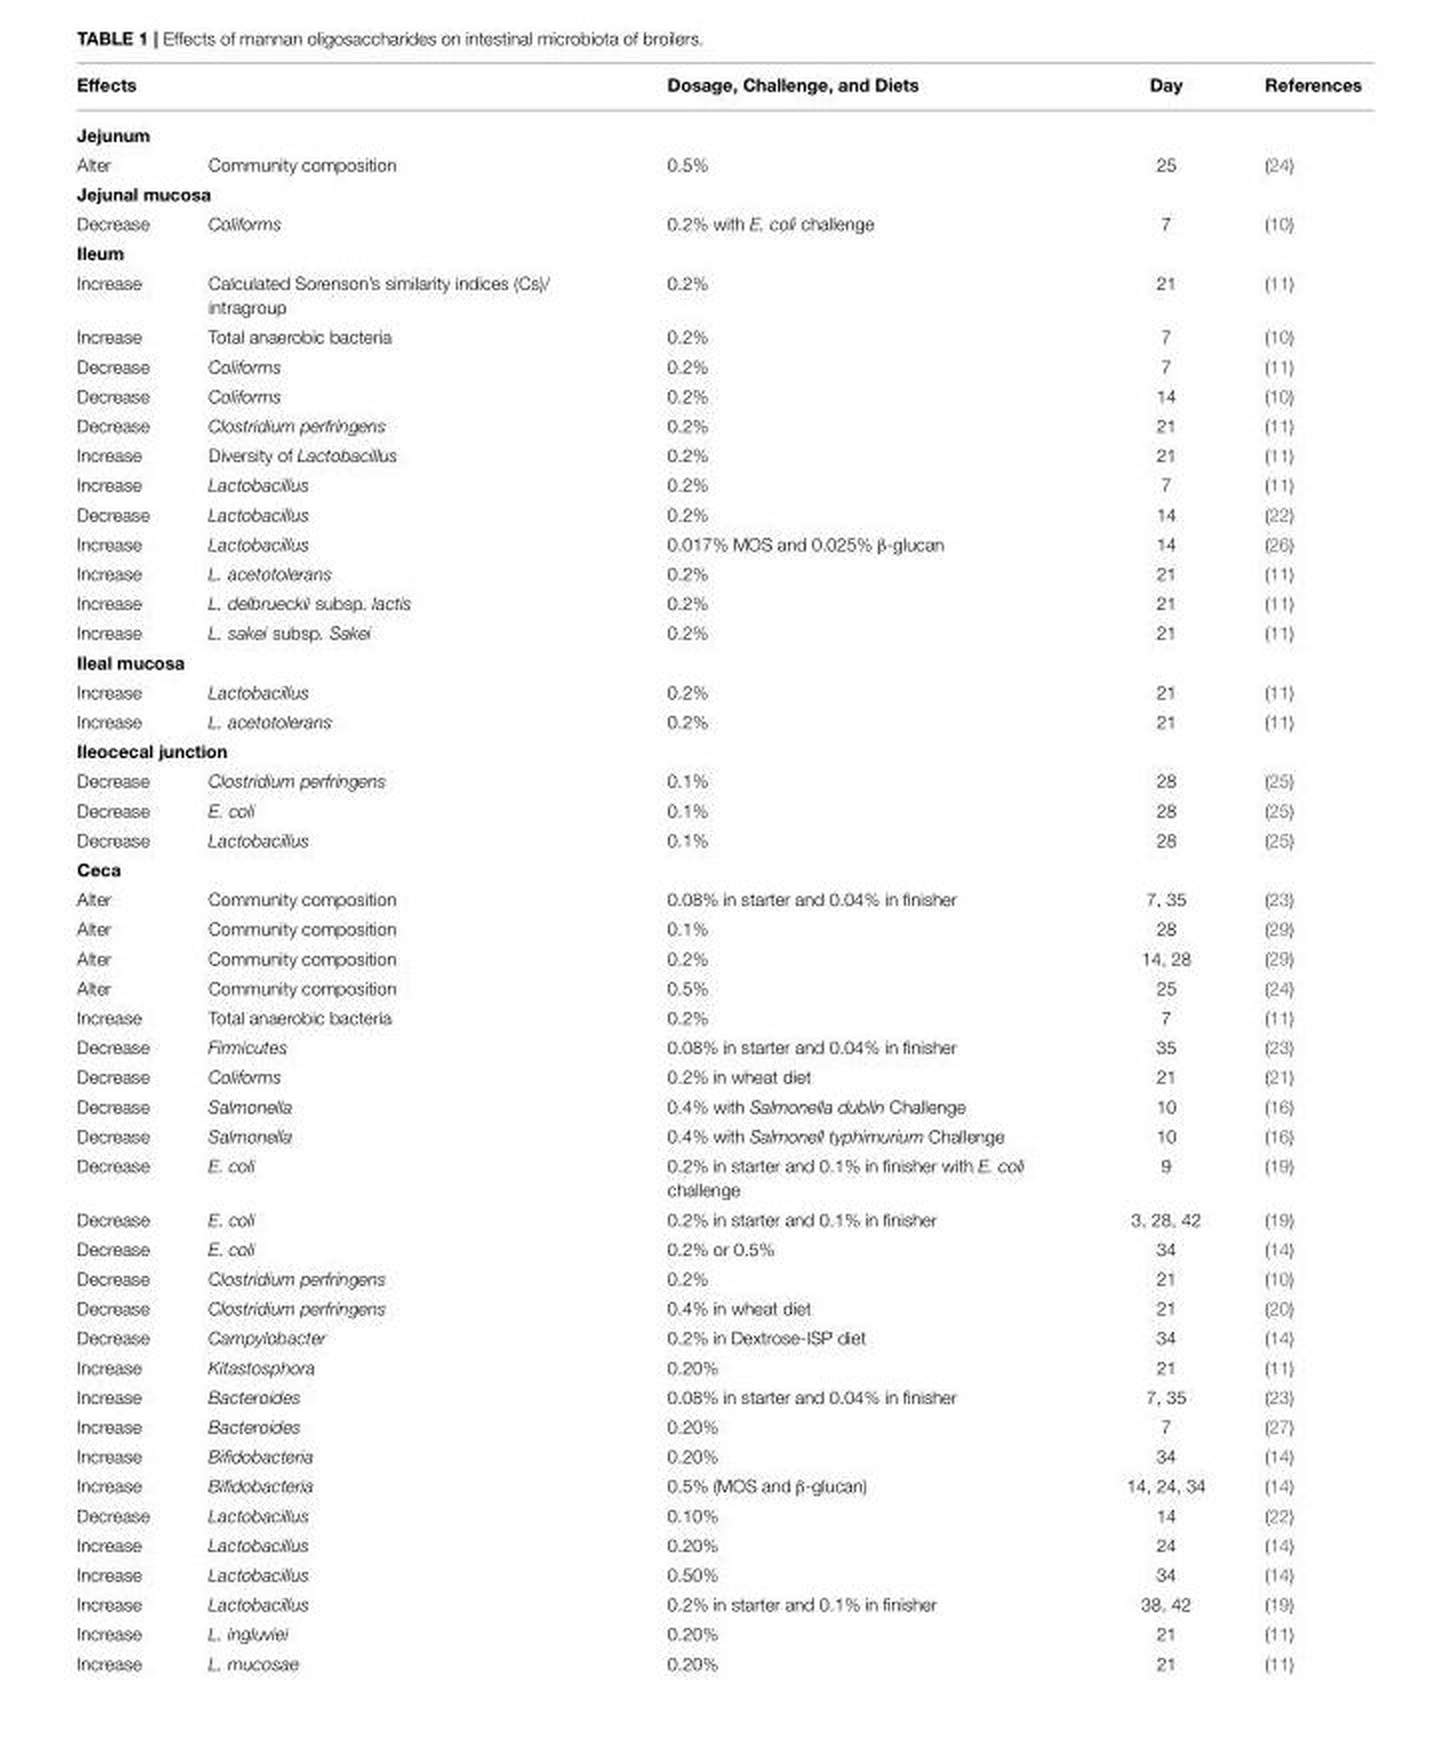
<table><thead><tr><td colspan="2">Effects</td><td>Dosage, Challenge, and Diets</td><td>Day</td><td>References</td></tr><tr><td colspan="5">Jejunum</td></tr><tr><td>Alter</td><td>Community composition</td><td>0.5%</td><td>25</td><td>(24)</td></tr></thead><tbody><tr><td colspan="5">Jejunal mucosa</td></tr><tr><td>Decrease</td><td>Coliforms</td><td>0.2% with E. coli challenge</td><td>7</td><td>(10)</td></tr><tr><td colspan="5">Ileum</td></tr><tr><td>Increase</td><td>Calculated Sorenson’s similarity indices (Cs)/ intragroup</td><td>0.2%</td><td>21</td><td>(11)</td></tr><tr><td>Increase</td><td>Total anaerobic bacteria</td><td>0.2%</td><td>7</td><td>(10)</td></tr><tr><td>Decrease</td><td>Coliforms</td><td>0.2%</td><td>7</td><td>(11)</td></tr><tr><td>Decrease</td><td>Coliforms</td><td>0.2%</td><td>14</td><td>(10)</td></tr><tr><td>Decrease</td><td>Clostridium perfringens</td><td>0.2%</td><td>21</td><td>(11)</td></tr><tr><td>Increase</td><td>Diversity of Lactobacillus</td><td>0.2%</td><td>21</td><td>(11)</td></tr><tr><td>Increase</td><td>Lactobacillus</td><td>0.2%</td><td>7</td><td>(11)</td></tr><tr><td>Decrease</td><td>Lactobacillus</td><td>0.2%</td><td>14</td><td>(22)</td></tr><tr><td>Increase</td><td>Lactobacillus</td><td>0.017% MOS and 0.025% β-glucan</td><td>14</td><td>(26)</td></tr><tr><td>Increase</td><td>L. acetotolerans</td><td>0.2%</td><td>21</td><td>(11)</td></tr><tr><td>Increase</td><td>L. delbrueckii subsp. lactis</td><td>0.2%</td><td>21</td><td>(11)</td></tr><tr><td>Increase</td><td>L. sakei subsp. Sakei</td><td>0.2%</td><td>21</td><td>(11)</td></tr><tr><td colspan="5">Ileal mucosa</td></tr><tr><td>Increase</td><td>Lactobacillus</td><td>0.2%</td><td>21</td><td>(11)</td></tr><tr><td>Increase</td><td>L. acetotolerans</td><td>0.2%</td><td>21</td><td>(11)</td></tr><tr><td colspan="5">Ileocecal junction</td></tr><tr><td>Decrease</td><td>Clostridium perfringens</td><td>0.1%</td><td>28</td><td>(25)</td></tr><tr><td>Decrease</td><td>E. coli</td><td>0.1%</td><td>28</td><td>(25)</td></tr><tr><td>Decrease</td><td>Lactobacillus</td><td>0.1%</td><td>28</td><td>(25)</td></tr><tr><td colspan="5">Ceca</td></tr><tr><td>Alter</td><td>Community composition</td><td>0.08% in starter and 0.04% in finisher</td><td>7, 35</td><td>(23)</td></tr><tr><td>Alter</td><td>Community composition</td><td>0.1%</td><td>28</td><td>(29)</td></tr><tr><td>Alter</td><td>Community composition</td><td>0.2%</td><td>14, 28</td><td>(29)</td></tr><tr><td>Alter</td><td>Community composition</td><td>0.5%</td><td>25</td><td>(24)</td></tr><tr><td>Increase</td><td>Total anaerobic bacteria</td><td>0.2%</td><td>7</td><td>(11)</td></tr><tr><td>Decrease</td><td>Firmicutes</td><td>0.08% in starter and 0.04% in finisher</td><td>35</td><td>(23)</td></tr><tr><td>Decrease</td><td>Coliforms</td><td>0.2% in wheat diet</td><td>21</td><td>(21)</td></tr><tr><td>Decrease</td><td>Salmonella</td><td>0.4% with Salmonella dublin Challenge</td><td>10</td><td>(16)</td></tr><tr><td>Decrease</td><td>Salmonella</td><td>0.4% with Salmonell typhimurium Challenge</td><td>10</td><td>(16)</td></tr><tr><td>Decrease</td><td>E. coli</td><td>0.2% in starter and 0.1% in finisher with E. coli challenge</td><td>9</td><td>(19)</td></tr><tr><td>Decrease</td><td>E. coli</td><td>0.2% in starter and 0.1% in finisher</td><td>3, 28, 42</td><td>(19)</td></tr><tr><td>Decrease</td><td>E. coli</td><td>0.2% or 0.5%</td><td>34</td><td>(14)</td></tr><tr><td>Decrease</td><td>Clostridium perfringens</td><td>0.2%</td><td>21</td><td>(10)</td></tr><tr><td>Decrease</td><td>Clostridium perfringens</td><td>0.4% in wheat diet</td><td>21</td><td>(20)</td></tr><tr><td>Decrease</td><td>Campylobacter</td><td>0.2% in Dextrose-ISP diet</td><td>34</td><td>(14)</td></tr><tr><td>Increase</td><td>Kitastosphora</td><td>0.20%</td><td>21</td><td>(11)</td></tr><tr><td>Increase</td><td>Bacteroides</td><td>0.08% in starter and 0.04% in finisher</td><td>7, 35</td><td>(23)</td></tr><tr><td>Increase</td><td>Bacteroides</td><td>0.20%</td><td>7</td><td>(27)</td></tr><tr><td>Increase</td><td>Bifidobacteria</td><td>0.20%</td><td>34</td><td>(14)</td></tr><tr><td>Increase</td><td>Bifidobacteria</td><td>0.5% (MOS and β-glucan)</td><td>14, 24, 34</td><td>(14)</td></tr><tr><td>Decrease</td><td>Lactobacillus</td><td>0.10%</td><td>14</td><td>(22)</td></tr><tr><td>Increase</td><td>Lactobacillus</td><td>0.20%</td><td>24</td><td>(14)</td></tr><tr><td>Increase</td><td>Lactobacillus</td><td>0.50%</td><td>34</td><td>(14)</td></tr><tr><td>Increase</td><td>Lactobacillus</td><td>0.2% in starter and 0.1% in finisher</td><td>38, 42</td><td>(19)</td></tr><tr><td>Increase</td><td>L. ingluviei</td><td>0.20%</td><td>21</td><td>(11)</td></tr><tr><td>Increase</td><td>L. mucosae</td><td>0.20%</td><td>21</td><td>(11)</td></tr></tbody></table>